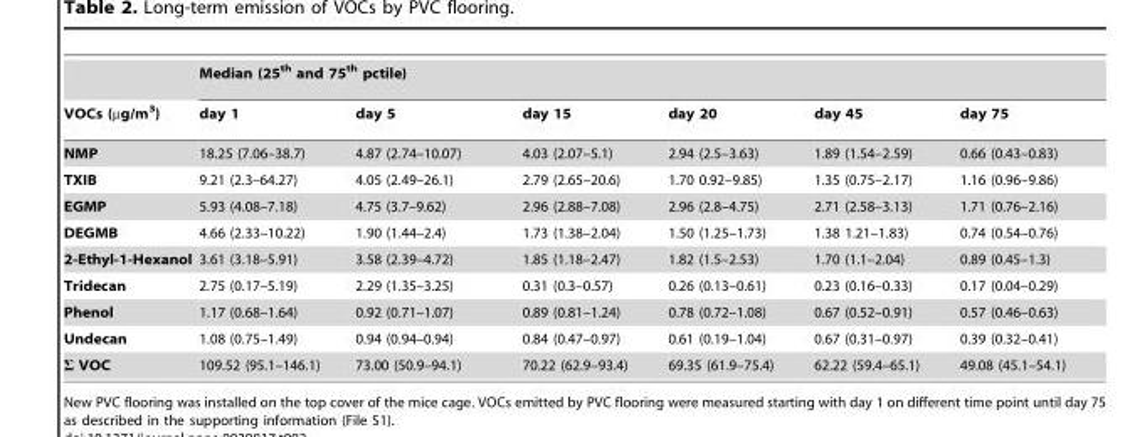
<table><thead><tr><td rowspan="2">VOCs (µg/m<sup>3</sup>)</td><td colspan="6">Median (25<sup>th</sup> and 75<sup>th</sup> pctile)</td></tr><tr><td>day 1</td><td>day 5</td><td>day 15</td><td>day 20</td><td>day 45</td><td>day 75</td></tr></thead><tbody><tr><td>NMP</td><td>18.25 (7.06–38.7)</td><td>4.87 (2.74–10.07)</td><td>4.03 (2.07–5.1)</td><td>2.94 (2.5–3.63)</td><td>1.89 (1.54–2.59)</td><td>0.66 (0.43–0.83)</td></tr><tr><td>TXIB</td><td>9.21 (2.3–64.27)</td><td>4.05 (2.49–26.1)</td><td>2.79 (2.65–20.6)</td><td>1.70 0.92–9.85)</td><td>1.35 (0.75–2.17)</td><td>1.16 (0.96–9.86)</td></tr><tr><td>EGMP</td><td>5.93 (4.08–7.18)</td><td>4.75 (3.7–9.62)</td><td>2.96 (2.88–7.08)</td><td>2.96 (2.8–4.75)</td><td>2.71 (2.58–3.13)</td><td>1.71 (0.76–2.16)</td></tr><tr><td>DEGMB</td><td>4.66 (2.33–10.22)</td><td>1.90 (1.44–2.4)</td><td>1.73 (1.38–2.04)</td><td>1.50 (1.25–1.73)</td><td>1.38 1.21–1.83)</td><td>0.74 (0.54–0.76)</td></tr><tr><td>2-Ethyl-1-Hexanol</td><td>3.61 (3.18–5.91)</td><td>3.58 (2.39–4.72)</td><td>1.85 (1.18–2.47)</td><td>1.82 (1.5–2.53)</td><td>1.70 (1.1–2.04)</td><td>0.89 (0.45–1.3)</td></tr><tr><td>Tridecan</td><td>2.75 (0.17–5.19)</td><td>2.29 (1.35–3.25)</td><td>0.31 (0.3–0.57)</td><td>0.26 (0.13–0.61)</td><td>0.23 (0.16–0.33)</td><td>0.17 (0.04–0.29)</td></tr><tr><td>Phenol</td><td>1.17 (0.68–1.64)</td><td>0.92 (0.71–1.07)</td><td>0.89 (0.81–1.24)</td><td>0.78 (0.72–1.08)</td><td>0.67 (0.52–0.91)</td><td>0.57 (0.46–0.63)</td></tr><tr><td>Undecan</td><td>1.08 (0.75–1.49)</td><td>0.94 (0.94–0.94)</td><td>0.84 (0.47–0.97)</td><td>0.61 (0.19–1.04)</td><td>0.67 (0.31–0.97)</td><td>0.39 (0.32–0.41)</td></tr><tr><td>Σ VOC</td><td>109.52 (95.1–146.1)</td><td>73.00 (50.9–94.1)</td><td>70.22 (62.9–93.4)</td><td>69.35 (61.9–75.4)</td><td>62.22 (59.4–65.1)</td><td>49.08 (45.1–54.1)</td></tr></tbody></table>